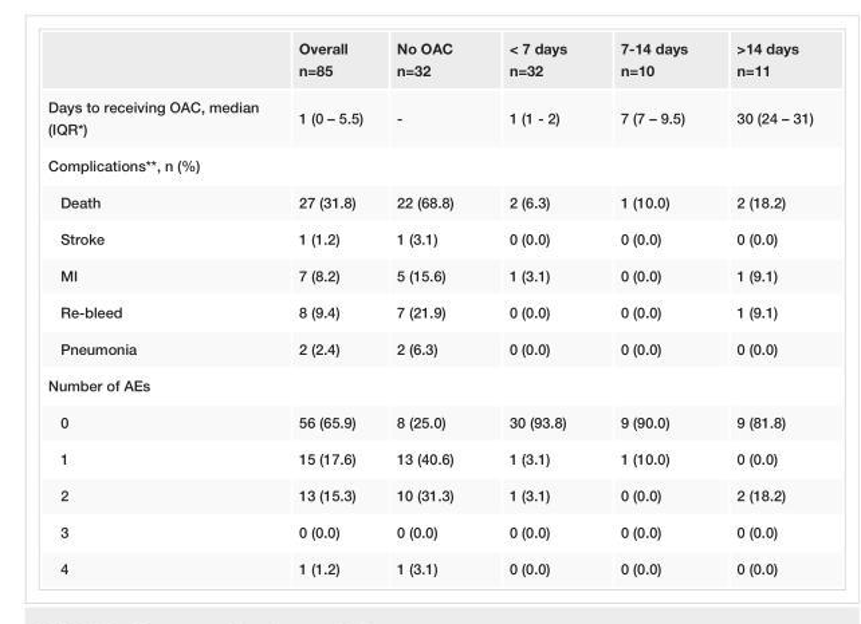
<table><thead><tr><td></td><td>Overall n=85</td><td>No OAC n=32</td><td>&lt; 7 days n=32</td><td>7-14 days n=10</td><td>&gt;14 days n=11</td></tr></thead><tbody><tr><td>Days to receiving OAC, median (IQR*)</td><td>1 (0 – 5.5)</td><td>-</td><td>1 (1 - 2)</td><td>7 (7 – 9.5)</td><td>30 (24 – 31)</td></tr><tr><td colspan="6">Complications**, n (%)</td></tr><tr><td>Death</td><td>27 (31.8)</td><td>22 (68.8)</td><td>2 (6.3)</td><td>1 (10.0)</td><td>2 (18.2)</td></tr><tr><td>Stroke</td><td>1 (1.2)</td><td>1 (3.1)</td><td>0 (0.0)</td><td>0 (0.0)</td><td>0 (0.0)</td></tr><tr><td>MI</td><td>7 (8.2)</td><td>5 (15.6)</td><td>1 (3.1)</td><td>0 (0.0)</td><td>1 (9.1)</td></tr><tr><td>Re-bleed</td><td>8 (9.4)</td><td>7 (21.9)</td><td>0 (0.0)</td><td>0 (0.0)</td><td>1 (9.1)</td></tr><tr><td>Pneumonia</td><td>2 (2.4)</td><td>2 (6.3)</td><td>0 (0.0)</td><td>0 (0.0)</td><td>0 (0.0)</td></tr><tr><td colspan="6">Number of AEs</td></tr><tr><td>0</td><td>56 (65.9)</td><td>8 (25.0)</td><td>30 (93.8)</td><td>9 (90.0)</td><td>9 (81.8)</td></tr><tr><td>1</td><td>15 (17.6)</td><td>13 (40.6)</td><td>1 (3.1)</td><td>1 (10.0)</td><td>0 (0.0)</td></tr><tr><td>2</td><td>13 (15.3)</td><td>10 (31.3)</td><td>1 (3.1)</td><td>0 (0.0)</td><td>2 (18.2)</td></tr><tr><td>3</td><td>0 (0.0)</td><td>0 (0.0)</td><td>0 (0.0)</td><td>0 (0.0)</td><td>0 (0.0)</td></tr><tr><td>4</td><td>1 (1.2)</td><td>1 (3.1)</td><td>0 (0.0)</td><td>0 (0.0)</td><td>0 (0.0)</td></tr></tbody></table>